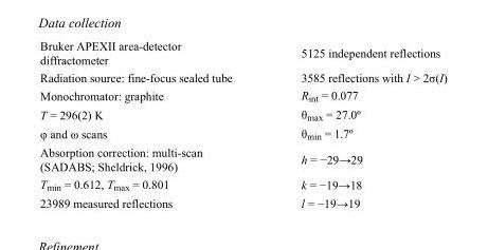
<table><tbody><tr><td>Bruker APEXII area-detector diffractometer</td><td>5125 independent reflections</td></tr><tr><td>Radiation source: fine-focus sealed tube</td><td>3585 reflections with I &gt; 2σ(I)</td></tr><tr><td>Monochromator: graphite</td><td>R<sub>int</sub> = 0.077</td></tr><tr><td>T = 296(2) K</td><td>θ<sub>max</sub> = 27.0º</td></tr><tr><td>φ and ω scans</td><td>θ<sub>min</sub> = 1.7º</td></tr><tr><td>Absorption correction: multi-scan (SADABS; Sheldrick, 1996)</td><td>h = −29→29</td></tr><tr><td>T<sub>min</sub> = 0.612, T<sub>max</sub> = 0.801</td><td>k = −19→18</td></tr><tr><td>23989 measured reflections</td><td>l = −19→19</td></tr></tbody></table>